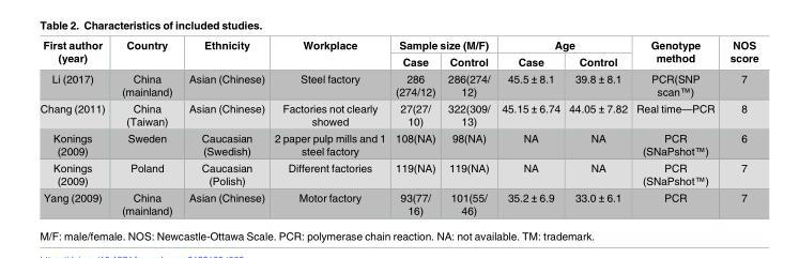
<table><thead><tr><td rowspan="2">First author (year)</td><td rowspan="2">Country</td><td rowspan="2">Ethnicity</td><td rowspan="2">Workplace</td><td colspan="2">Sample size (M/F)</td><td colspan="2">Age</td><td rowspan="2">Genotype method</td><td rowspan="2">NOS score</td></tr><tr><td>Case</td><td>Control</td><td>Case</td><td>Control</td></tr></thead><tbody><tr><td>Li (2017)</td><td>China (mainland)</td><td>Asian (Chinese)</td><td>Steel factory</td><td>286 (274/12)</td><td>286(274/ 12)</td><td>45.5 ± 8.1</td><td>39.8 ± 8.1</td><td>PCR(SNP scan<sup>™</sup>)</td><td>7</td></tr><tr><td>Chang (2011)</td><td>China (Taiwan)</td><td>Asian (Chinese)</td><td>Factories not clearly showed</td><td>27(27/ 10)</td><td>322(309/ 13)</td><td>45.15 ± 6.74</td><td>44.05 ± 7.82</td><td>Real time—PCR</td><td>8</td></tr><tr><td>Konings (2009)</td><td>Sweden</td><td>Caucasian (Swedish)</td><td>2 paper pulp mills and 1 steel factory</td><td>108(NA)</td><td>98(NA)</td><td>NA</td><td>NA</td><td>PCR (SNaPshot<sup>™</sup>)</td><td>6</td></tr><tr><td>Konings (2009)</td><td>Poland</td><td>Caucasian (Polish)</td><td>Different factories</td><td>119(NA)</td><td>119(NA)</td><td>NA</td><td>NA</td><td>PCR (SNaPshot<sup>™</sup>)</td><td>7</td></tr><tr><td>Yang (2009)</td><td>China (mainland)</td><td>Asian (Chinese)</td><td>Motor factory</td><td>93(77/ 16)</td><td>101(55/ 46)</td><td>35.2 ± 6.9</td><td>33.0 ± 6.1</td><td>PCR</td><td>7</td></tr></tbody></table>